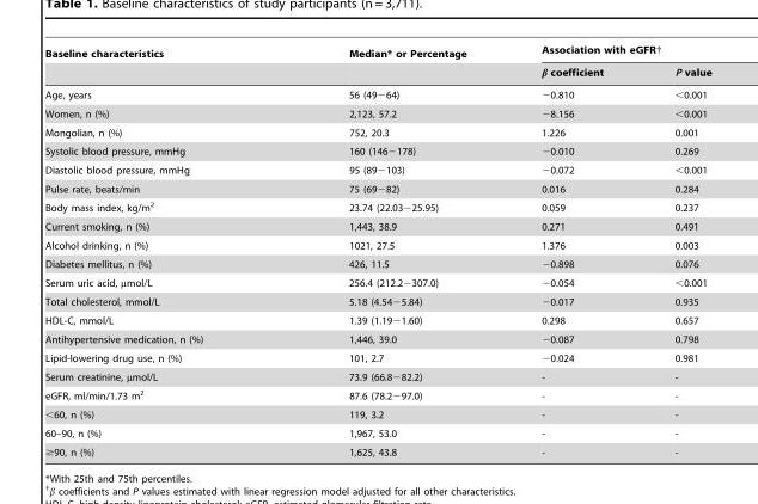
<table><thead><tr><td rowspan="2">Baseline characteristics</td><td rowspan="2">Median* or Percentage</td><td colspan="2">Association with eGFR†</td></tr><tr><td>β coefficient</td><td>P value</td></tr></thead><tbody><tr><td>Age, years</td><td>56 (49−64)</td><td>−0.810</td><td>&lt;0.001</td></tr><tr><td>Women, n (%)</td><td>2,123, 57.2</td><td>−8.156</td><td>&lt;0.001</td></tr><tr><td>Mongolian, n (%)</td><td>752, 20.3</td><td>1.226</td><td>0.001</td></tr><tr><td>Systolic blood pressure, mmHg</td><td>160 (146−178)</td><td>−0.010</td><td>0.269</td></tr><tr><td>Diastolic blood pressure, mmHg</td><td>95 (89−103)</td><td>−0.072</td><td>&lt;0.001</td></tr><tr><td>Pulse rate, beats/min</td><td>75 (69−82)</td><td>0.016</td><td>0.284</td></tr><tr><td>Body mass index, kg/m<sup>2</sup></td><td>23.74 (22.03−25.95)</td><td>0.059</td><td>0.237</td></tr><tr><td>Current smoking, n (%)</td><td>1,443, 38.9</td><td>0.271</td><td>0.491</td></tr><tr><td>Alcohol drinking, n (%)</td><td>1021, 27.5</td><td>1.376</td><td>0.003</td></tr><tr><td>Diabetes mellitus, n (%)</td><td>426, 11.5</td><td>−0.898</td><td>0.076</td></tr><tr><td>Serum uric acid, µmol/L</td><td>256.4 (212.2−307.0)</td><td>−0.054</td><td>&lt;0.001</td></tr><tr><td>Total cholesterol, mmol/L</td><td>5.18 (4.54−5.84)</td><td>−0.017</td><td>0.935</td></tr><tr><td>HDL-C, mmol/L</td><td>1.39 (1.19−1.60)</td><td>0.298</td><td>0.657</td></tr><tr><td>Antihypertensive medication, n (%)</td><td>1,446, 39.0</td><td>−0.087</td><td>0.798</td></tr><tr><td>Lipid-lowering drug use, n (%)</td><td>101, 2.7</td><td>−0.024</td><td>0.981</td></tr><tr><td>Serum creatinine, µmol/L</td><td>73.9 (66.8−82.2)</td><td>-</td><td>-</td></tr><tr><td>eGFR, ml/min/1.73 m<sup>2</sup></td><td>87.6 (78.2−97.0)</td><td>-</td><td>-</td></tr><tr><td>&lt;60, n (%)</td><td>119, 3.2</td><td>-</td><td>-</td></tr><tr><td>60–90, n (%)</td><td>1,967, 53.0</td><td>-</td><td>-</td></tr><tr><td>≥90, n (%)</td><td>1,625, 43.8</td><td>-</td><td>-</td></tr></tbody></table>